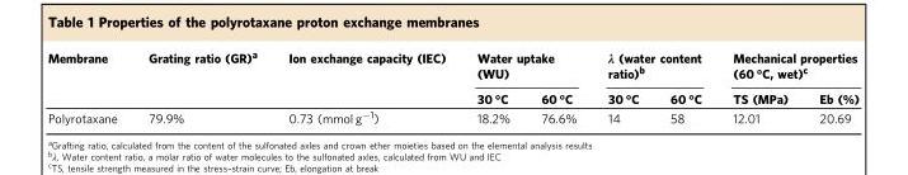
<table><thead><tr><td rowspan="2">Membrane</td><td rowspan="2">Grating ratio (GR)<sup>a</sup></td><td rowspan="2">Ion exchange capacity (IEC)</td><td colspan="2">Water uptake (WU)</td><td colspan="2">λ (water content ratio)<sup>b</sup></td><td colspan="2">Mechanical properties (60 °C, wet)<sup>c</sup></td></tr><tr><td>30 °C</td><td>60 °C</td><td>30 °C</td><td>60 °C</td><td>TS (MPa)</td><td>Eb (%)</td></tr></thead><tbody><tr><td>Polyrotaxane</td><td>79.9%</td><td>0.73 (mmol g<sup>−1</sup>)</td><td>18.2%</td><td>76.6%</td><td>14</td><td>58</td><td>12.01</td><td>20.69</td></tr></tbody></table>